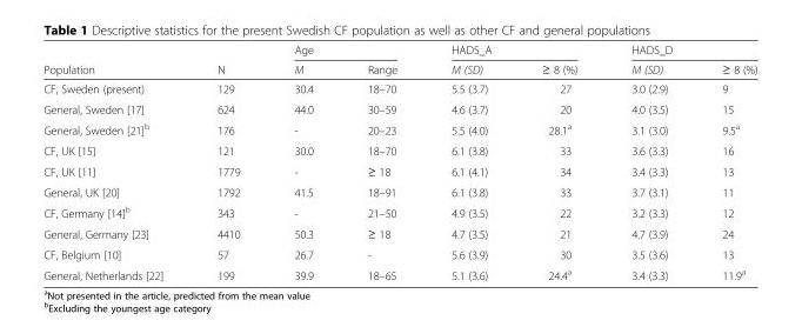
<table><thead><tr><td rowspan="2">Population</td><td rowspan="2">N</td><td colspan="2">Age</td><td colspan="2">HADS_A</td><td colspan="2">HADS_D</td></tr><tr><td>M</td><td>Range</td><td>M (SD)</td><td>≥ 8 (%)</td><td>M (SD)</td><td>≥ 8 (%)</td></tr></thead><tbody><tr><td>CF, Sweden (present)</td><td>129</td><td>30.4</td><td>18–70</td><td>5.5 (3.7)</td><td>27</td><td>3.0 (2.9)</td><td>9</td></tr><tr><td>General, Sweden [17]</td><td>624</td><td>44.0</td><td>30–59</td><td>4.6 (3.7)</td><td>20</td><td>4.0 (3.5)</td><td>15</td></tr><tr><td>General, Sweden [21]<sup>b</sup></td><td>176</td><td>-</td><td>20–23</td><td>5.5 (4.0)</td><td>28.1<sup>a</sup></td><td>3.1 (3.0)</td><td>9.5<sup>a</sup></td></tr><tr><td>CF, UK [15]</td><td>121</td><td>30.0</td><td>18–70</td><td>6.1 (3.8)</td><td>33</td><td>3.6 (3.3)</td><td>16</td></tr><tr><td>CF, UK [11]</td><td>1779</td><td>-</td><td>≥ 18</td><td>6.1 (4.1)</td><td>34</td><td>3.4 (3.3)</td><td>13</td></tr><tr><td>General, UK [20]</td><td>1792</td><td>41.5</td><td>18–91</td><td>6.1 (3.8)</td><td>33</td><td>3.7 (3.1)</td><td>11</td></tr><tr><td>CF, Germany [14]<sup>b</sup></td><td>343</td><td>-</td><td>21–50</td><td>4.9 (3.5)</td><td>22</td><td>3.2 (3.3)</td><td>12</td></tr><tr><td>General, Germany [23]</td><td>4410</td><td>50.3</td><td>≥ 18</td><td>4.7 (3.5)</td><td>21</td><td>4.7 (3.9)</td><td>24</td></tr><tr><td>CF, Belgium [10]</td><td>57</td><td>26.7</td><td>-</td><td>5.6 (3.9)</td><td>30</td><td>3.5 (3.6)</td><td>13</td></tr><tr><td>General, Netherlands [22]</td><td>199</td><td>39.9</td><td>18–65</td><td>5.1 (3.6)</td><td>24.4<sup>a</sup></td><td>3.4 (3.3)</td><td>11.9<sup>a</sup></td></tr></tbody></table>